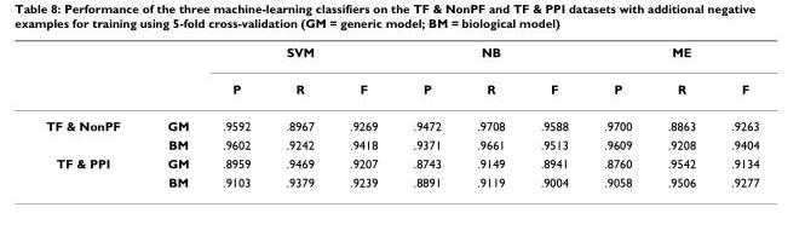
<table><thead><tr><td rowspan="2"></td><td rowspan="2"></td><td colspan="3">SVM</td><td colspan="3">NB</td><td colspan="3">ME</td></tr><tr><td>P</td><td>R</td><td>F</td><td>P</td><td>R</td><td>F</td><td>P</td><td>R</td><td>F</td></tr></thead><tbody><tr><td rowspan="2">TF &amp; NonPF</td><td>GM</td><td>.9592</td><td>.8967</td><td>.9269</td><td>.9472</td><td>.9708</td><td>.9588</td><td>.9700</td><td>.8863</td><td>.9263</td></tr><tr><td>BM</td><td>.9602</td><td>.9242</td><td>.9418</td><td>.9371</td><td>.9661</td><td>.9513</td><td>.9609</td><td>.9208</td><td>.9404</td></tr><tr><td rowspan="2">TF &amp; PPI</td><td>GM</td><td>.8959</td><td>.9469</td><td>.9207</td><td>.8743</td><td>.9149</td><td>.8941</td><td>.8760</td><td>.9542</td><td>.9134</td></tr><tr><td>BM</td><td>.9103</td><td>.9379</td><td>.9239</td><td>.8891</td><td>.9119</td><td>.9004</td><td>.9058</td><td>.9506</td><td>.9277</td></tr></tbody></table>